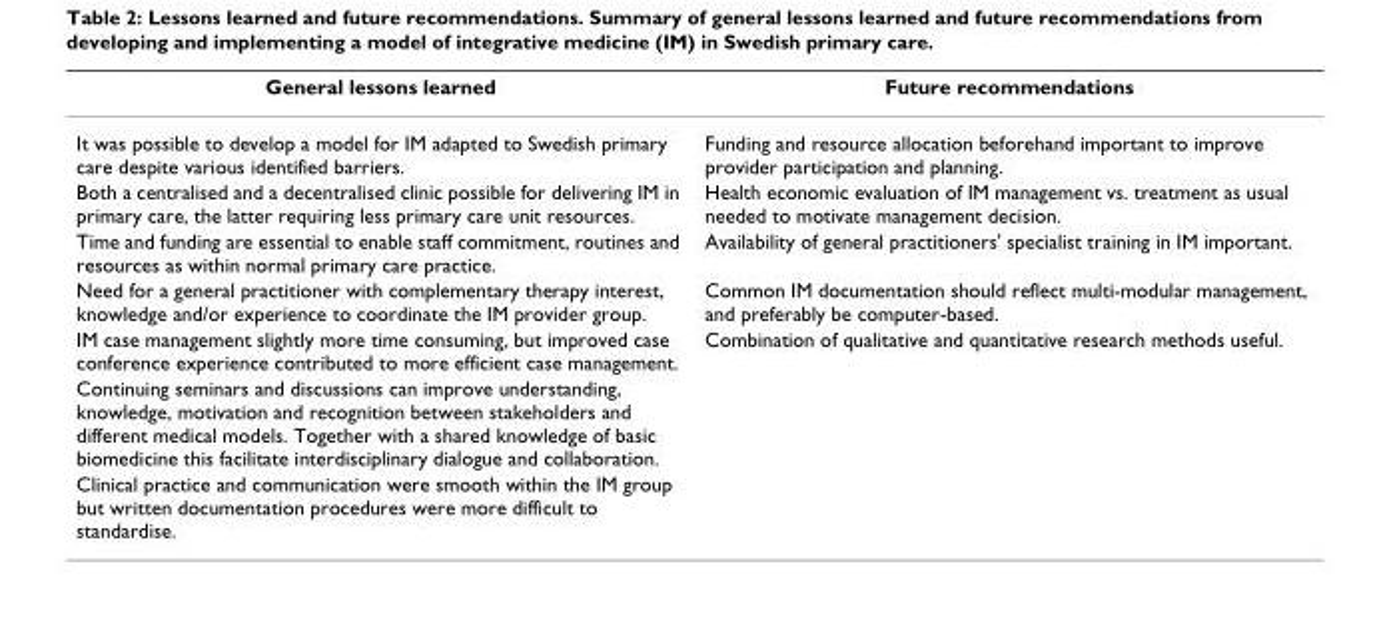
<table><thead><tr><td>General lessons learned</td><td>Future recommendations</td></tr></thead><tbody><tr><td>It was possible to develop a model for IM adapted to Swedish primary care despite various identified barriers.</td><td>Funding and resource allocation beforehand important to improve provider participation and planning.</td></tr><tr><td>Both a centralised and a decentralised clinic possible for delivering IM in primary care, the latter requiring less primary care unit resources.</td><td>Health economic evaluation of IM management vs. treatment as usual needed to motivate management decision.</td></tr><tr><td>Time and funding are essential to enable staff commitment, routines and resources as within normal primary care practice.</td><td>Availability of general practitioners&#x27; specialist training in IM important.</td></tr><tr><td>Need for a general practitioner with complementary therapy interest, knowledge and/or experience to coordinate the IM provider group.</td><td>Common IM documentation should reflect multi-modular management, and preferably be computer-based.</td></tr><tr><td>IM case management slightly more time consuming, but improved case conference experience contributed to more efficient case management.</td><td>Combination of qualitative and quantitative research methods useful.</td></tr><tr><td colspan="2">Continuing seminars and discussions can improve understanding, knowledge, motivation and recognition between stakeholders and different medical models. Together with a shared knowledge of basic biomedicine this facilitate interdisciplinary dialogue and collaboration.</td></tr><tr><td>Clinical practice and communication were smooth within the IM group but written documentation procedures were more difficult to standardise.</td><td></td></tr></tbody></table>